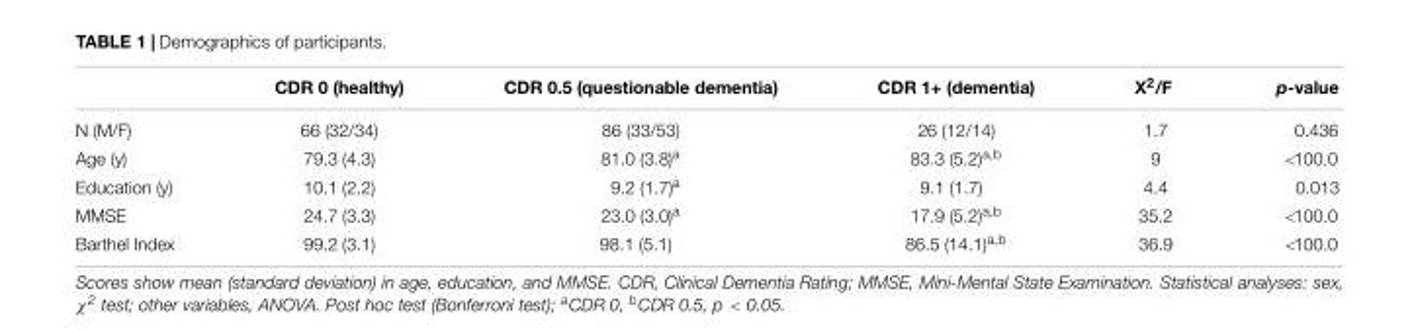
<table><thead><tr><td></td><td>CDR 0 (healthy)</td><td>CDR 0.5 (questionable dementia)</td><td>CDR 1+ (dementia)</td><td>X<sup>2</sup>/F</td><td>p-value</td></tr></thead><tbody><tr><td>N (M/F)</td><td>66 (32/34)</td><td>86 (33/53)</td><td>26 (12/14)</td><td>1.7</td><td>0.436</td></tr><tr><td>Age (y)</td><td>79.3 (4.3)</td><td>81.0 (3.8)<sup>a</sup></td><td>83.3 (5.2)<sup>a,b</sup></td><td>9</td><td>&lt;100.0</td></tr><tr><td>Education (y)</td><td>10.1 (2.2)</td><td>9.2 (1.7)<sup>a</sup></td><td>9.1 (1.7)</td><td>4.4</td><td>0.013</td></tr><tr><td>MMSE</td><td>24.7 (3.3)</td><td>23.0 (3.0)<sup>a</sup></td><td>17.9 (5.2)<sup>a,b</sup></td><td>35.2</td><td>&lt;100.0</td></tr><tr><td>Barthel Index</td><td>99.2 (3.1)</td><td>98.1 (5.1)</td><td>86.5 (14.1)<sup>a,b</sup></td><td>36.9</td><td>&lt;100.0</td></tr></tbody></table>